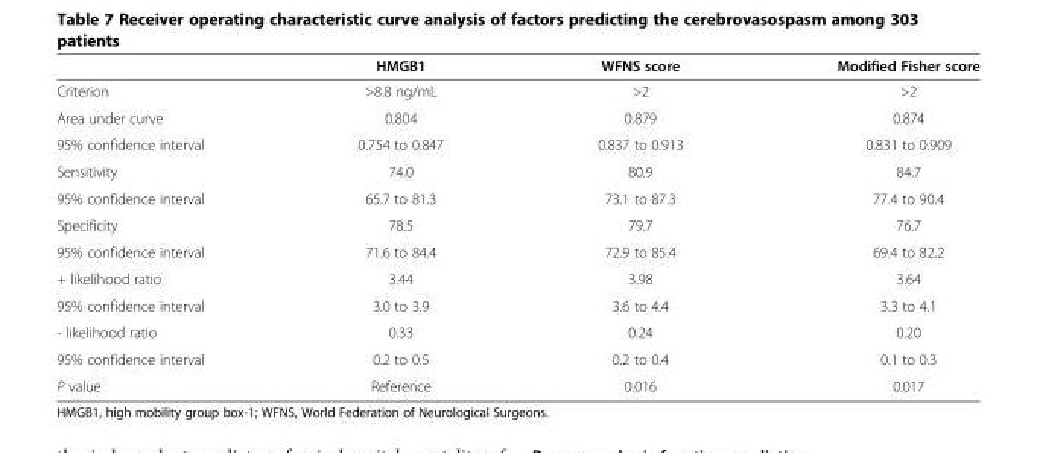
<table><thead><tr><td></td><td>HMGB1</td><td>WFNS score</td><td>Modified Fisher score</td></tr></thead><tbody><tr><td>Criterion</td><td>&gt;8.8 ng/mL</td><td>&gt;2</td><td>&gt;2</td></tr><tr><td>Area under curve</td><td>0.804</td><td>0.879</td><td>0.874</td></tr><tr><td>95% confidence interval</td><td>0.754 to 0.847</td><td>0.837 to 0.913</td><td>0.831 to 0.909</td></tr><tr><td>Sensitivity</td><td>74.0</td><td>80.9</td><td>84.7</td></tr><tr><td>95% confidence interval</td><td>65.7 to 81.3</td><td>73.1 to 87.3</td><td>77.4 to 90.4</td></tr><tr><td>Specificity</td><td>78.5</td><td>79.7</td><td>76.7</td></tr><tr><td>95% confidence interval</td><td>71.6 to 84.4</td><td>72.9 to 85.4</td><td>69.4 to 82.2</td></tr><tr><td>+ likelihood ratio</td><td>3.44</td><td>3.98</td><td>3.64</td></tr><tr><td>95% confidence interval</td><td>3.0 to 3.9</td><td>3.6 to 4.4</td><td>3.3 to 4.1</td></tr><tr><td>- likelihood ratio</td><td>0.33</td><td>0.24</td><td>0.20</td></tr><tr><td>95% confidence interval</td><td>0.2 to 0.5</td><td>0.2 to 0.4</td><td>0.1 to 0.3</td></tr><tr><td>P value</td><td>Reference</td><td>0.016</td><td>0.017</td></tr></tbody></table>